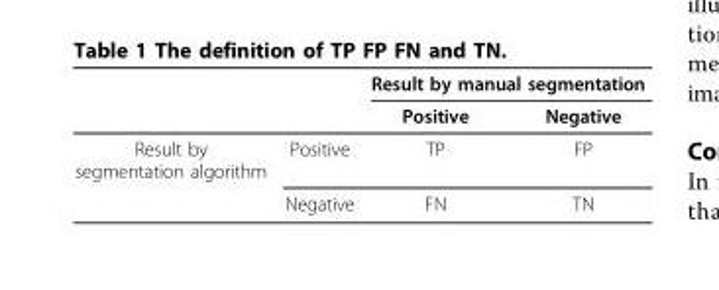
<table><thead><tr><td rowspan="2"></td><td rowspan="2"></td><td colspan="2">Result by manual segmentation</td></tr><tr><td>Positive</td><td>Negative</td></tr></thead><tbody><tr><td rowspan="2">Result by segmentation algorithm</td><td>Positive</td><td>TP</td><td>FP</td></tr><tr><td>Negative</td><td>FN</td><td>TN</td></tr></tbody></table>